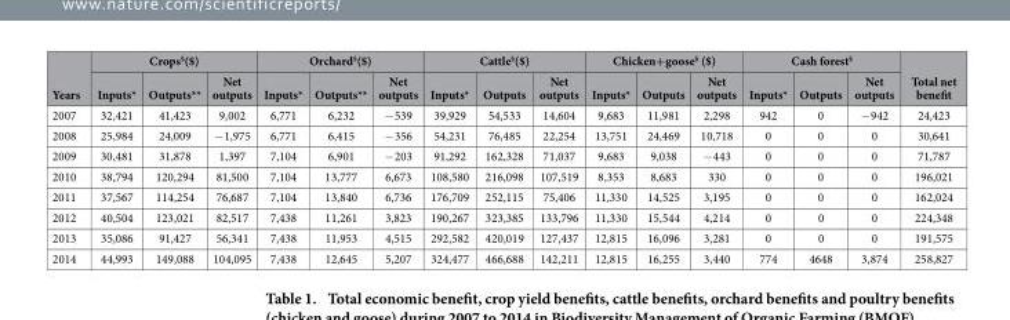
<table><thead><tr><td rowspan="2">Years</td><td colspan="3">Crops§($)</td><td colspan="3">Orchard§($)</td><td colspan="3">Cattle§($)</td><td colspan="3">Chicken+goose§ ($)</td><td colspan="3">Cash forest§</td><td rowspan="2">Total net benefit</td></tr><tr><td>Inputs*</td><td>Outputs**</td><td>Net outputs</td><td>Inputs*</td><td>Outputs**</td><td>Net outputs</td><td>Inputs*</td><td>Outputs</td><td>Net outputs</td><td>Inputs*</td><td>Outputs</td><td>Net outputs</td><td>Inputs*</td><td>Outputs</td><td>Net outputs</td></tr></thead><tbody><tr><td>2007</td><td>32,421</td><td>41,423</td><td>9,002</td><td>6,771</td><td>6,232</td><td>− 539</td><td>39,929</td><td>54,533</td><td>14,604</td><td>9,683</td><td>11,981</td><td>2,298</td><td>942</td><td>0</td><td>− 942</td><td>24,423</td></tr><tr><td>2008</td><td>25,984</td><td>24,009</td><td>− 1,975</td><td>6,771</td><td>6,415</td><td>− 356</td><td>54,231</td><td>76,485</td><td>22,254</td><td>13,751</td><td>24,469</td><td>10,718</td><td>0</td><td>0</td><td>0</td><td>30,641</td></tr><tr><td>2009</td><td>30,481</td><td>31,878</td><td>1,397</td><td>7,104</td><td>6,901</td><td>− 203</td><td>91,292</td><td>162,328</td><td>71,037</td><td>9,683</td><td>9,038</td><td>− 443</td><td>0</td><td>0</td><td>0</td><td>71,787</td></tr><tr><td>2010</td><td>38,794</td><td>120,294</td><td>81,500</td><td>7,104</td><td>13,777</td><td>6,673</td><td>108,580</td><td>216,098</td><td>107,519</td><td>8,353</td><td>8,683</td><td>330</td><td>0</td><td>0</td><td>0</td><td>196,021</td></tr><tr><td>2011</td><td>37,567</td><td>114,254</td><td>76,687</td><td>7,104</td><td>13,840</td><td>6,736</td><td>176,709</td><td>252,115</td><td>75,406</td><td>11,330</td><td>14,525</td><td>3,195</td><td>0</td><td>0</td><td>0</td><td>162,024</td></tr><tr><td>2012</td><td>40,504</td><td>123,021</td><td>82,517</td><td>7,438</td><td>11,261</td><td>3,823</td><td>190,267</td><td>323,385</td><td>133,796</td><td>11,330</td><td>15,544</td><td>4,214</td><td>0</td><td>0</td><td>0</td><td>224,348</td></tr><tr><td>2013</td><td>35,086</td><td>91,427</td><td>56,341</td><td>7,438</td><td>11,953</td><td>4,515</td><td>292,582</td><td>420,019</td><td>127,437</td><td>12,815</td><td>16,096</td><td>3,281</td><td>0</td><td>0</td><td>0</td><td>191,575</td></tr><tr><td>2014</td><td>44,993</td><td>149,088</td><td>104,095</td><td>7,438</td><td>12,645</td><td>5,207</td><td>324,477</td><td>466,688</td><td>142,211</td><td>12,815</td><td>16,255</td><td>3,440</td><td>774</td><td>4648</td><td>3,874</td><td>258,827</td></tr></tbody></table>